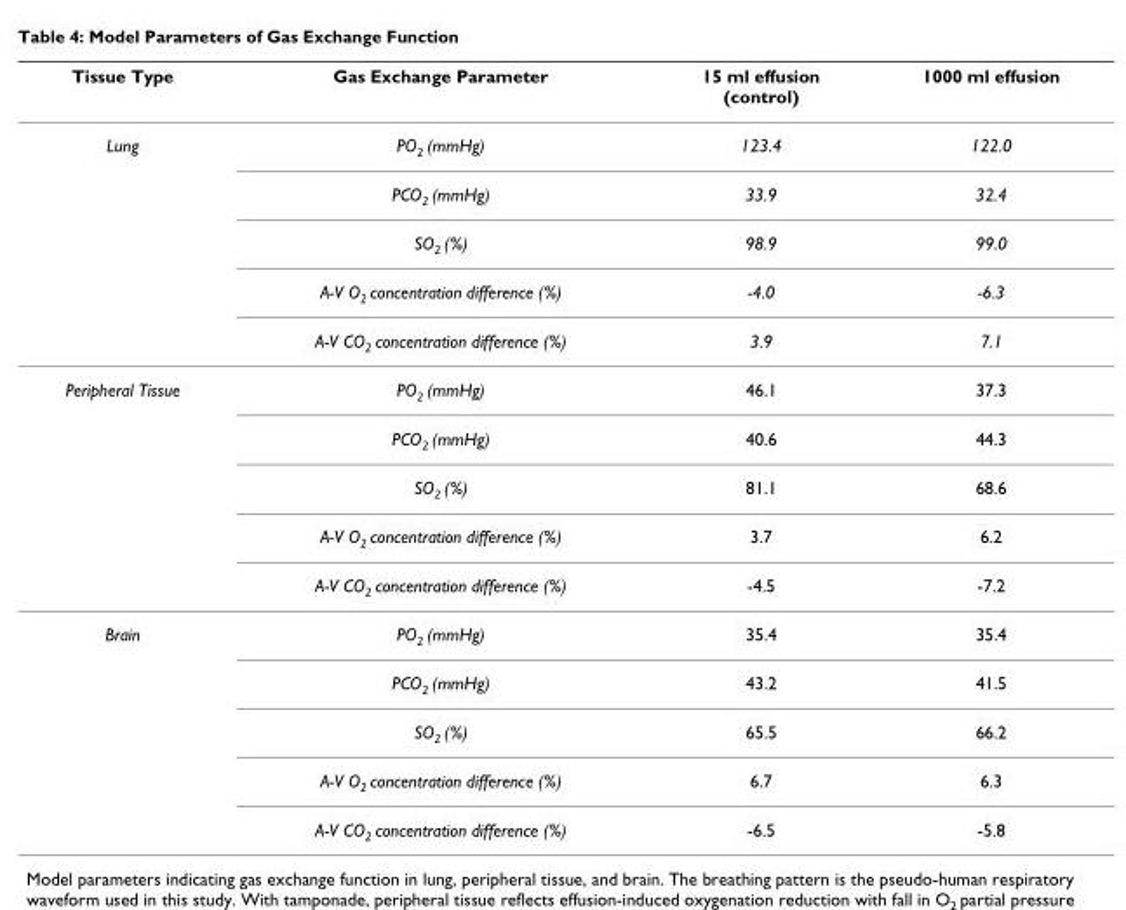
<table><thead><tr><td>Tissue Type</td><td>Gas Exchange Parameter</td><td>15 ml effusion (control)</td><td>1000 ml effusion</td></tr></thead><tbody><tr><td rowspan="5">Lung</td><td>PO<sub>2</sub> (mmHg)</td><td>123.4</td><td>122.0</td></tr><tr><td>PCO<sub>2</sub> (mmHg)</td><td>33.9</td><td>32.4</td></tr><tr><td>SO<sub>2</sub> (%)</td><td>98.9</td><td>99.0</td></tr><tr><td>A-V O<sub>2</sub> concentration difference (%)</td><td>-4.0</td><td>-6.3</td></tr><tr><td>A-V CO<sub>2</sub> concentration difference (%)</td><td>3.9</td><td>7.1</td></tr><tr><td rowspan="5">Peripheral Tissue</td><td>PO<sub>2</sub> (mmHg)</td><td>46.1</td><td>37.3</td></tr><tr><td>PCO<sub>2</sub> (mmHg)</td><td>40.6</td><td>44.3</td></tr><tr><td>SO<sub>2</sub> (%)</td><td>81.1</td><td>68.6</td></tr><tr><td>A-V O<sub>2</sub> concentration difference (%)</td><td>3.7</td><td>6.2</td></tr><tr><td>A-V CO<sub>2</sub> concentration difference (%)</td><td>-4.5</td><td>-7.2</td></tr><tr><td rowspan="5">Brain</td><td>PO<sub>2</sub> (mmHg)</td><td>35.4</td><td>35.4</td></tr><tr><td>PCO<sub>2</sub> (mmHg)</td><td>43.2</td><td>41.5</td></tr><tr><td>SO<sub>2</sub> (%)</td><td>65.5</td><td>66.2</td></tr><tr><td>A-V O<sub>2</sub> concentration difference (%)</td><td>6.7</td><td>6.3</td></tr><tr><td>A-V CO<sub>2</sub> concentration difference (%)</td><td>-6.5</td><td>-5.8</td></tr></tbody></table>